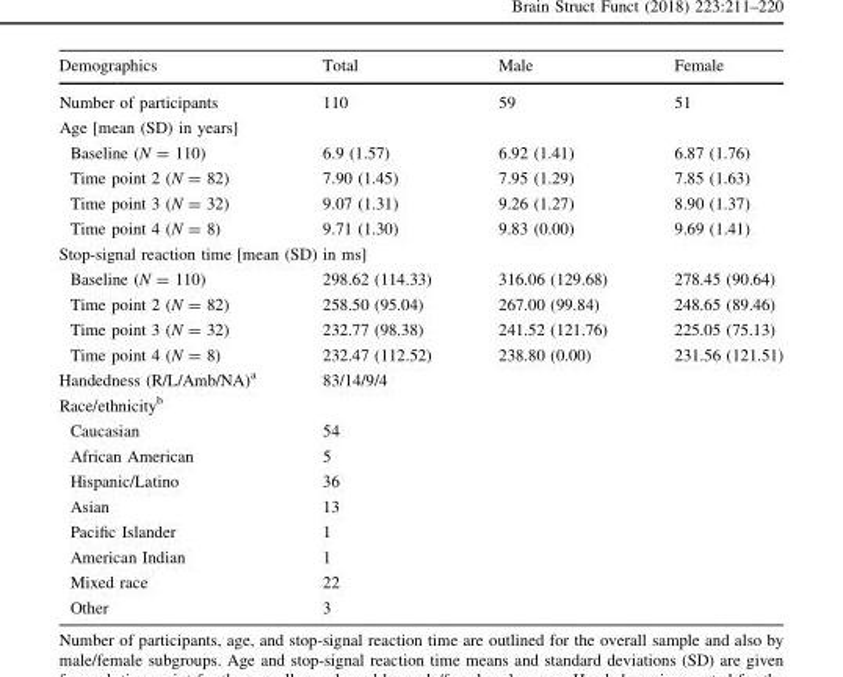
<table><thead><tr><td>Demographics</td><td>Total</td><td>Male</td><td>Female</td></tr></thead><tbody><tr><td>Number of participants</td><td>110</td><td>59</td><td>51</td></tr><tr><td colspan="4">Age [mean (SD) in years]</td></tr><tr><td>Baseline (N = 110)</td><td>6.9 (1.57)</td><td>6.92 (1.41)</td><td>6.87 (1.76)</td></tr><tr><td>Time point 2 (N = 82)</td><td>7.90 (1.45)</td><td>7.95 (1.29)</td><td>7.85 (1.63)</td></tr><tr><td>Time point 3 (N = 32)</td><td>9.07 (1.31)</td><td>9.26 (1.27)</td><td>8.90 (1.37)</td></tr><tr><td>Time point 4 (N = 8)</td><td>9.71 (1.30)</td><td>9.83 (0.00)</td><td>9.69 (1.41)</td></tr><tr><td colspan="4">Stop-signal reaction time [mean (SD) in ms]</td></tr><tr><td>Baseline (N = 110)</td><td>298.62 (114.33)</td><td>316.06 (129.68)</td><td>278.45 (90.64)</td></tr><tr><td>Time point 2 (N = 82)</td><td>258.50 (95.04)</td><td>267.00 (99.84)</td><td>248.65 (89.46)</td></tr><tr><td>Time point 3 (N = 32)</td><td>232.77 (98.38)</td><td>241.52 (121.76)</td><td>225.05 (75.13)</td></tr><tr><td>Time point 4 (N = 8)</td><td>232.47 (112.52)</td><td>238.80 (0.00)</td><td>231.56 (121.51)</td></tr><tr><td>Handedness (R/L/Amb/NA)<sup>a</sup></td><td>83/14/9/4</td><td></td><td></td></tr><tr><td colspan="4">Race/ethnicity<sup>b</sup></td></tr><tr><td>Caucasian</td><td>54</td><td></td><td></td></tr><tr><td>African American</td><td>5</td><td></td><td></td></tr><tr><td>Hispanic/Latino</td><td>36</td><td></td><td></td></tr><tr><td>Asian</td><td>13</td><td></td><td></td></tr><tr><td>Pacific Islander</td><td>1</td><td></td><td></td></tr><tr><td>American Indian</td><td>1</td><td></td><td></td></tr><tr><td>Mixed race</td><td>22</td><td></td><td></td></tr><tr><td>Other</td><td>3</td><td></td><td></td></tr></tbody></table>